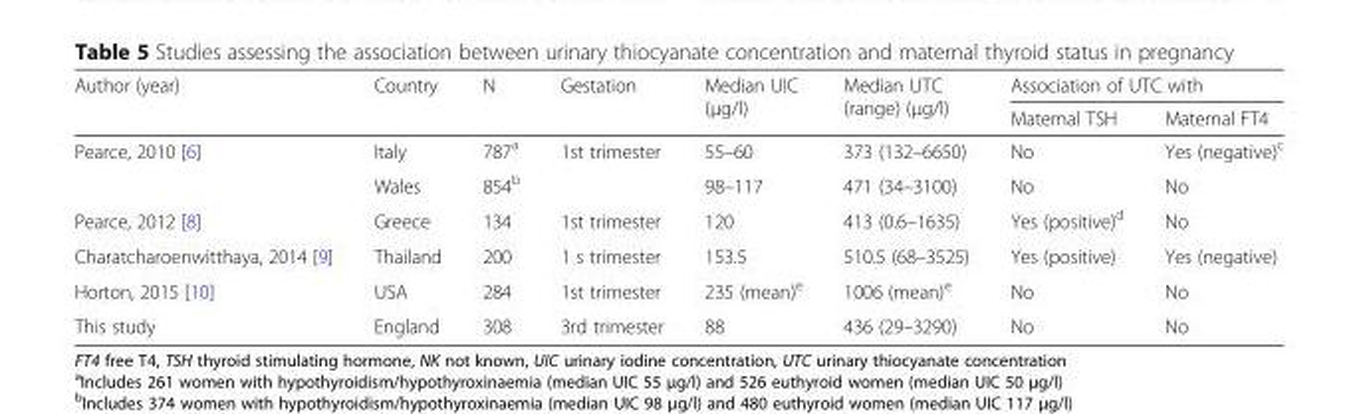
<table><thead><tr><td rowspan="2">Author (year)</td><td rowspan="2">Country</td><td rowspan="2">N</td><td rowspan="2">Gestation</td><td rowspan="2">Median UIC (μg/l)</td><td rowspan="2">Median UTC (range) (μg/l)</td><td colspan="2">Association of UTC with</td></tr><tr><td>Maternal TSH</td><td>Maternal FT4</td></tr></thead><tbody><tr><td rowspan="2">Pearce, 2010 [6]</td><td>Italy</td><td>787<sup>a</sup></td><td>1st trimester</td><td>55–60</td><td>373 (132–6650)</td><td>No</td><td>Yes (negative)<sup>c</sup></td></tr><tr><td>Wales</td><td>854<sup>b</sup></td><td></td><td>98–117</td><td>471 (34–3100)</td><td>No</td><td>No</td></tr><tr><td>Pearce, 2012 [8]</td><td>Greece</td><td>134</td><td>1st trimester</td><td>120</td><td>413 (0.6–1635)</td><td>Yes (positive)<sup>d</sup></td><td>No</td></tr><tr><td>Charatcharoenwitthaya, 2014 [9]</td><td>Thailand</td><td>200</td><td>1 s trimester</td><td>153.5</td><td>510.5 (68–3525)</td><td>Yes (positive)</td><td>Yes (negative)</td></tr><tr><td>Horton, 2015 [10]</td><td>USA</td><td>284</td><td>1st trimester</td><td>235 (mean)<sup>e</sup></td><td>1006 (mean)<sup>e</sup></td><td>No</td><td>No</td></tr><tr><td>This study</td><td>England</td><td>308</td><td>3rd trimester</td><td>88</td><td>436 (29–3290)</td><td>No</td><td>No</td></tr></tbody></table>